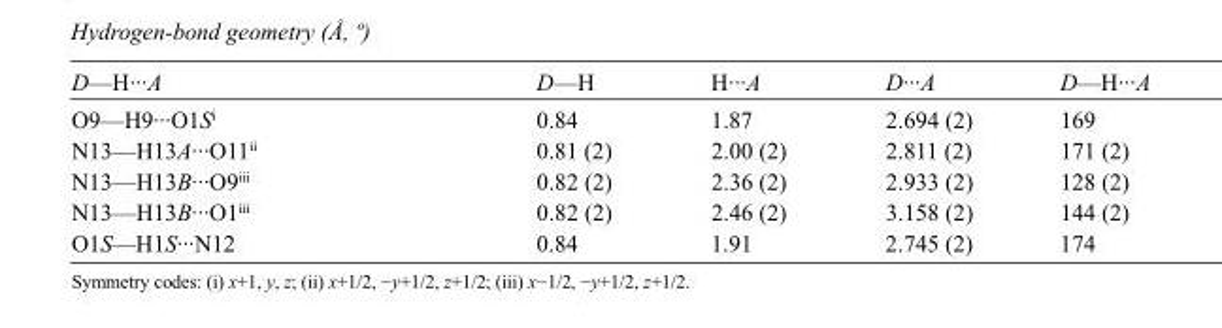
<table><tbody><tr><td>D—H···A</td><td>D—H</td><td>H···A</td><td>D···A</td><td>D—H···A</td></tr><tr><td>O9—H9···O1S<sup>i</sup></td><td>0.84</td><td>1.87</td><td>2.694 (2)</td><td>169</td></tr><tr><td>N13—H13A···O11<sup>ii</sup></td><td>0.81 (2)</td><td>2.00 (2)</td><td>2.811 (2)</td><td>171 (2)</td></tr><tr><td>N13—H13B···O9<sup>iii</sup></td><td>0.82 (2)</td><td>2.36 (2)</td><td>2.933 (2)</td><td>128 (2)</td></tr><tr><td>N13—H13B···O1<sup>iii</sup></td><td>0.82 (2)</td><td>2.46 (2)</td><td>3.158 (2)</td><td>144 (2)</td></tr><tr><td>O1S—H1S···N12</td><td>0.84</td><td>1.91</td><td>2.745 (2)</td><td>174</td></tr></tbody></table>